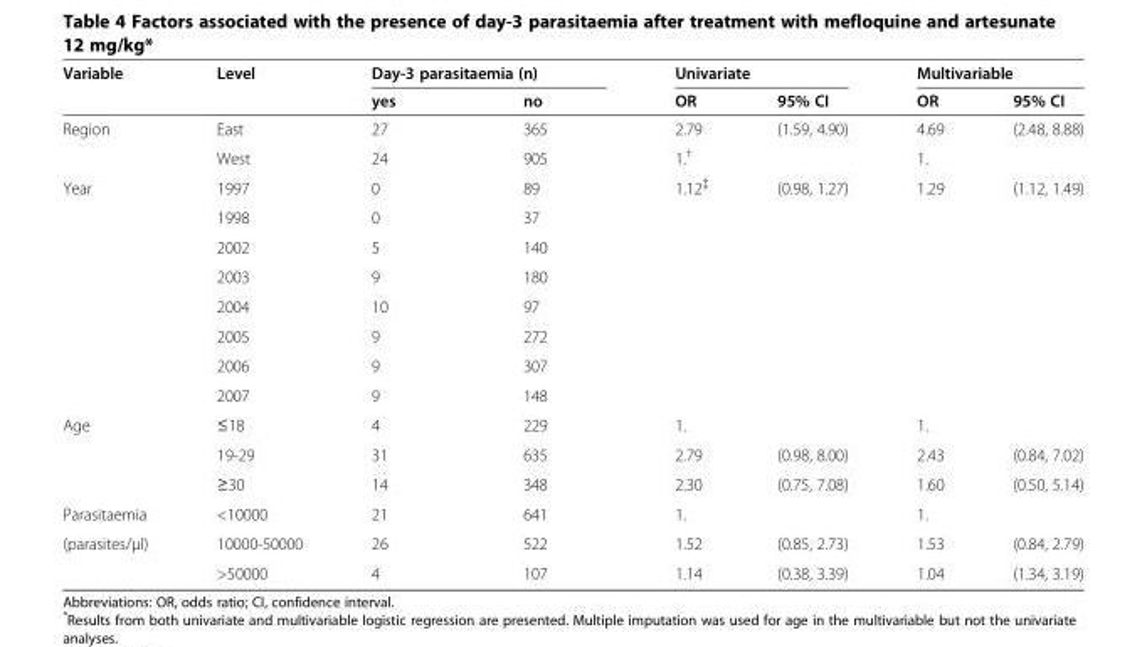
<table><thead><tr><td rowspan="2">Variable</td><td rowspan="2">Level</td><td colspan="2">Day-3 parasitaemia (n)</td><td colspan="2">Univariate</td><td colspan="2">Multivariable</td></tr><tr><td>yes</td><td>no</td><td>OR</td><td>95% CI</td><td>OR</td><td>95% CI</td></tr></thead><tbody><tr><td rowspan="2">Region</td><td>East</td><td>27</td><td>365</td><td>2.79</td><td>(1.59, 4.90)</td><td>4.69</td><td>(2.48, 8.88)</td></tr><tr><td>West</td><td>24</td><td>905</td><td>1.<sup>†</sup></td><td></td><td>1.</td><td></td></tr><tr><td rowspan="8">Year</td><td>1997</td><td>0</td><td>89</td><td>1.12<sup>‡</sup></td><td>(0.98, 1.27)</td><td>1.29</td><td>(1.12, 1.49)</td></tr><tr><td>1998</td><td>0</td><td>37</td><td></td><td></td><td></td><td></td></tr><tr><td>2002</td><td>5</td><td>140</td><td></td><td></td><td></td><td></td></tr><tr><td>2003</td><td>9</td><td>180</td><td></td><td></td><td></td><td></td></tr><tr><td>2004</td><td>10</td><td>97</td><td></td><td></td><td></td><td></td></tr><tr><td>2005</td><td>9</td><td>272</td><td></td><td></td><td></td><td></td></tr><tr><td>2006</td><td>9</td><td>307</td><td></td><td></td><td></td><td></td></tr><tr><td>2007</td><td>9</td><td>148</td><td></td><td></td><td></td><td></td></tr><tr><td rowspan="3">Age</td><td>≤18</td><td>4</td><td>229</td><td>1.</td><td></td><td>1.</td><td></td></tr><tr><td>19-29</td><td>31</td><td>635</td><td>2.79</td><td>(0.98, 8.00)</td><td>2.43</td><td>(0.84, 7.02)</td></tr><tr><td>≥30</td><td>14</td><td>348</td><td>2.30</td><td>(0.75, 7.08)</td><td>1.60</td><td>(0.50, 5.14)</td></tr><tr><td>Parasitaemia</td><td>&lt;10000</td><td>21</td><td>641</td><td>1.</td><td></td><td>1.</td><td></td></tr><tr><td rowspan="2">(parasites/μl)</td><td>10000-50000</td><td>26</td><td>522</td><td>1.52</td><td>(0.85, 2.73)</td><td>1.53</td><td>(0.84, 2.79)</td></tr><tr><td>&gt;50000</td><td>4</td><td>107</td><td>1.14</td><td>(0.38, 3.39)</td><td>1.04</td><td>(1.34, 3.19)</td></tr></tbody></table>